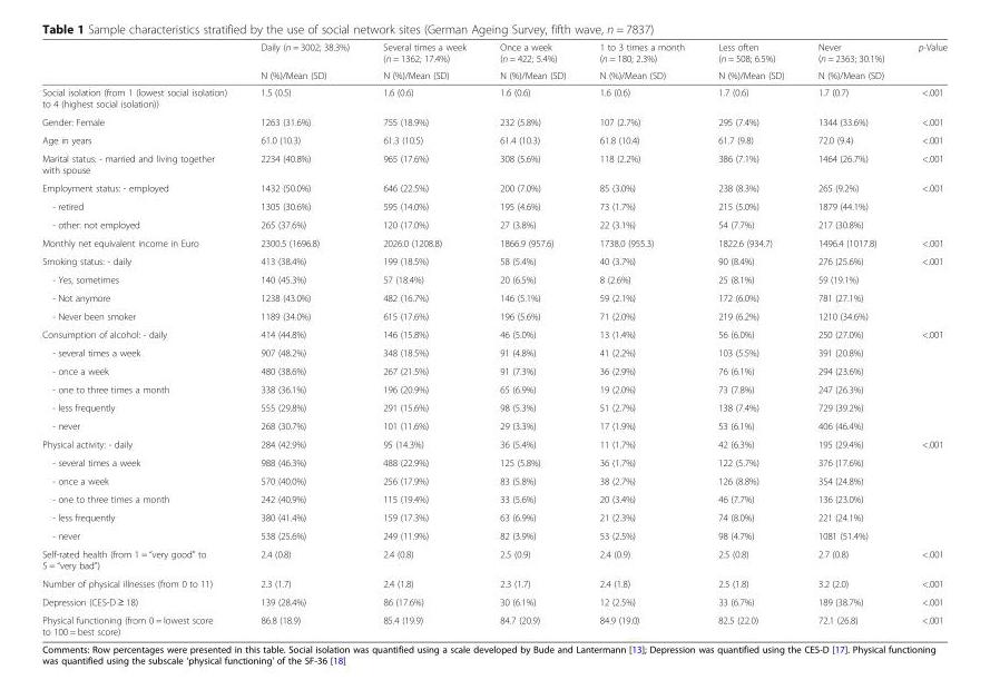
<table><thead><tr><td rowspan="2"></td><td rowspan="2">Daily (n = 3002; 38.3%) N (%)/Mean (SD)</td><td rowspan="2">Several times a week (n = 1362; 17.4%) N (%)/Mean (SD)</td><td rowspan="2">Once a week (n = 422; 5.4%) N (%)/Mean (SD)</td><td rowspan="2">1 to 3 times a month (n = 180; 2.3%) N (%)/Mean (SD)</td><td rowspan="2">Less often (n = 508; 6.5%) N (%)/Mean (SD)</td><td rowspan="2">Never (n = 2363; 30.1%) N (%)/Mean (SD)</td><td rowspan="2">p-Value</td></tr><tr></tr></thead><tbody><tr><td>Social isolation (from 1 (lowest social isolation) to 4 (highest social isolation))</td><td>1.5 (0.5)</td><td>1.6 (0.6)</td><td>1.6 (0.6)</td><td>1.6 (0.6)</td><td>1.7 (0.6)</td><td>1.7 (0.7)</td><td>&lt;.001</td></tr><tr><td>Gender: Female</td><td>1263 (31.6%)</td><td>755 (18.9%)</td><td>232 (5.8%)</td><td>107 (2.7%)</td><td>295 (7.4%)</td><td>1344 (33.6%)</td><td>&lt;.001</td></tr><tr><td>Age in years</td><td>61.0 (10.3)</td><td>61.3 (10.5)</td><td>61.4 (10.3)</td><td>61.8 (10.4)</td><td>61.7 (9.8)</td><td>72.0 (9.4)</td><td>&lt;.001</td></tr><tr><td>Marital status: - married and living together with spouse</td><td>2234 (40.8%)</td><td>965 (17.6%)</td><td>308 (5.6%)</td><td>118 (2.2%)</td><td>386 (7.1%)</td><td>1464 (26.7%)</td><td>&lt;.001</td></tr><tr><td>Employment status: - employed</td><td>1432 (50.0%)</td><td>646 (22.5%)</td><td>200 (7.0%)</td><td>85 (3.0%)</td><td>238 (8.3%)</td><td>265 (9.2%)</td><td>&lt;.001</td></tr><tr><td>- retired</td><td>1305 (30.6%)</td><td>595 (14.0%)</td><td>195 (4.6%)</td><td>73 (1.7%)</td><td>215 (5.0%)</td><td>1879 (44.1%)</td><td></td></tr><tr><td>- other: not employed</td><td>265 (37.6%)</td><td>120 (17.0%)</td><td>27 (3.8%)</td><td>22 (3.1%)</td><td>54 (7.7%)</td><td>217 (30.8%)</td><td></td></tr><tr><td>Monthly net equivalent income in Euro</td><td>2300.5 (1696.8)</td><td>2026.0 (1208.8)</td><td>1866.9 (957.6)</td><td>1738.0 (955.3)</td><td>1822.6 (934.7)</td><td>1496.4 (1017.8)</td><td>&lt;.001</td></tr><tr><td>Smoking status: - daily</td><td>413 (38.4%)</td><td>199 (18.5%)</td><td>58 (5.4%)</td><td>40 (3.7%)</td><td>90 (8.4%)</td><td>276 (25.6%)</td><td>&lt;.001</td></tr><tr><td>- Yes, sometimes</td><td>140 (45.3%)</td><td>57 (18.4%)</td><td>20 (6.5%)</td><td>8 (2.6%)</td><td>25 (8.1%)</td><td>59 (19.1%)</td><td></td></tr><tr><td>- Not anymore</td><td>1238 (43.0%)</td><td>482 (16.7%)</td><td>146 (5.1%)</td><td>59 (2.1%)</td><td>172 (6.0%)</td><td>781 (27.1%)</td><td></td></tr><tr><td>- Never been smoker</td><td>1189 (34.0%)</td><td>615 (17.6%)</td><td>196 (5.6%)</td><td>71 (2.0%)</td><td>219 (6.2%)</td><td>1210 (34.6%)</td><td></td></tr><tr><td>Consumption of alcohol: - daily</td><td>414 (44.8%)</td><td>146 (15.8%)</td><td>46 (5.0%)</td><td>13 (1.4%)</td><td>56 (6.0%)</td><td>250 (27.0%)</td><td>&lt;.001</td></tr><tr><td>- several times a week</td><td>907 (48.2%)</td><td>348 (18.5%)</td><td>91 (4.8%)</td><td>41 (2.2%)</td><td>103 (5.5%)</td><td>391 (20.8%)</td><td></td></tr><tr><td>- once a week</td><td>480 (38.6%)</td><td>267 (21.5%)</td><td>91 (7.3%)</td><td>36 (2.9%)</td><td>76 (6.1%)</td><td>294 (23.6%)</td><td></td></tr><tr><td>- one to three times a month</td><td>338 (36.1%)</td><td>196 (20.9%)</td><td>65 (6.9%)</td><td>19 (2.0%)</td><td>73 (7.8%)</td><td>247 (26.3%)</td><td></td></tr><tr><td>- less frequently</td><td>555 (29.8%)</td><td>291 (15.6%)</td><td>98 (5.3%)</td><td>51 (2.7%)</td><td>138 (7.4%)</td><td>729 (39.2%)</td><td></td></tr><tr><td>- never</td><td>268 (30.7%)</td><td>101 (11.6%)</td><td>29 (3.3%)</td><td>17 (1.9%)</td><td>53 (6.1%)</td><td>406 (46.4%)</td><td></td></tr><tr><td>Physical activity: - daily</td><td>284 (42.9%)</td><td>95 (14.3%)</td><td>36 (5.4%)</td><td>11 (1.7%)</td><td>42 (6.3%)</td><td>195 (29.4%)</td><td>&lt;.001</td></tr><tr><td>- several times a week</td><td>988 (46.3%)</td><td>488 (22.9%)</td><td>125 (5.8%)</td><td>36 (1.7%)</td><td>122 (5.7%)</td><td>376 (17.6%)</td><td></td></tr><tr><td>- once a week</td><td>570 (40.0%)</td><td>256 (17.9%)</td><td>83 (5.8%)</td><td>38 (2.7%)</td><td>126 (8.8%)</td><td>354 (24.8%)</td><td></td></tr><tr><td>- one to three times a month</td><td>242 (40.9%)</td><td>115 (19.4%)</td><td>33 (5.6%)</td><td>20 (3.4%)</td><td>46 (7.7%)</td><td>136 (23.0%)</td><td></td></tr><tr><td>- less frequently</td><td>380 (41.4%)</td><td>159 (17.3%)</td><td>63 (6.9%)</td><td>21 (2.3%)</td><td>74 (8.0%)</td><td>221 (24.1%)</td><td></td></tr><tr><td>- never</td><td>538 (25.6%)</td><td>249 (11.9%)</td><td>82 (3.9%)</td><td>53 (2.5%)</td><td>98 (4.7%)</td><td>1081 (51.4%)</td><td></td></tr><tr><td>Self-rated health (from 1 = “very good” to 5 = “very bad”)</td><td>2.4 (0.8)</td><td>2.4 (0.8)</td><td>2.5 (0.9)</td><td>2.4 (0.9)</td><td>2.5 (0.8)</td><td>2.7 (0.8)</td><td>&lt;.001</td></tr><tr><td>Number of physical illnesses (from 0 to 11)</td><td>2.3 (1.7)</td><td>2.4 (1.8)</td><td>2.3 (1.7)</td><td>2.4 (1.8)</td><td>2.5 (1.8)</td><td>3.2 (2.0)</td><td>&lt;.001</td></tr><tr><td>Depression (CES-D ≥ 18)</td><td>139 (28.4%)</td><td>86 (17.6%)</td><td>30 (6.1%)</td><td>12 (2.5%)</td><td>33 (6.7%)</td><td>189 (38.7%)</td><td>&lt;.001</td></tr><tr><td>Physical functioning (from 0 = lowest score to 100 = best score)</td><td>86.8 (18.9)</td><td>85.4 (19.9)</td><td>84.7 (20.9)</td><td>84.9 (19.0)</td><td>82.5 (22.0)</td><td>72.1 (26.8)</td><td>&lt;.001</td></tr></tbody></table>